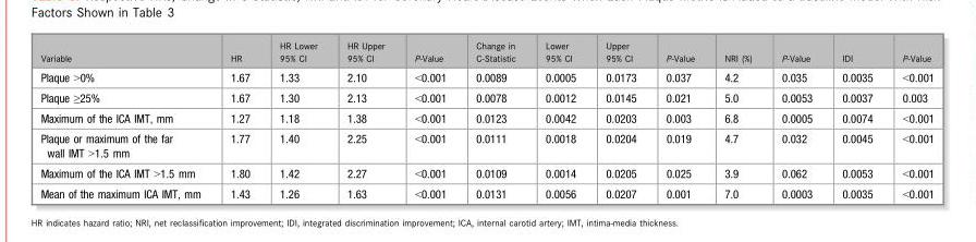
<table><thead><tr><td>Variable</td><td>HR</td><td>HR Lower 95% CI</td><td>HR Upper 95% CI</td><td>P-Value</td><td>Change in C-Statistic</td><td>Lower 95% CI</td><td>Upper 95% CI</td><td>P-Value</td><td>NRI (%)</td><td>P-Value</td><td>IDI</td><td>P-Value</td></tr></thead><tbody><tr><td>Plaque &gt;0%</td><td>1.67</td><td>1.33</td><td>2.10</td><td>&lt;0.001</td><td>0.0089</td><td>0.0005</td><td>0.0173</td><td>0.037</td><td>4.2</td><td>0.035</td><td>0.0035</td><td>&lt;0.001</td></tr><tr><td>Plaque ≥25%</td><td>1.67</td><td>1.30</td><td>2.13</td><td>&lt;0.001</td><td>0.0078</td><td>0.0012</td><td>0.0145</td><td>0.021</td><td>5.0</td><td>0.0053</td><td>0.0037</td><td>0.003</td></tr><tr><td>Maximum of the ICA IMT, mm</td><td>1.27</td><td>1.18</td><td>1.38</td><td>&lt;0.001</td><td>0.0123</td><td>0.0042</td><td>0.0203</td><td>0.003</td><td>6.8</td><td>0.0005</td><td>0.0074</td><td>&lt;0.001</td></tr><tr><td>Plaque or maximum of the far wall IMT &gt;1.5 mm</td><td>1.77</td><td>1.40</td><td>2.25</td><td>&lt;0.001</td><td>0.0111</td><td>0.0018</td><td>0.0204</td><td>0.019</td><td>4.7</td><td>0.032</td><td>0.0045</td><td>&lt;0.001</td></tr><tr><td>Maximum of the ICA IMT &gt;1.5 mm</td><td>1.80</td><td>1.42</td><td>2.27</td><td>&lt;0.001</td><td>0.0109</td><td>0.0014</td><td>0.0205</td><td>0.025</td><td>3.9</td><td>0.062</td><td>0.0053</td><td>&lt;0.001</td></tr><tr><td>Mean of the maximum ICA IMT, mm</td><td>1.43</td><td>1.26</td><td>1.63</td><td>&lt;0.001</td><td>0.0131</td><td>0.0056</td><td>0.0207</td><td>0.001</td><td>7.0</td><td>0.0003</td><td>0.0035</td><td>&lt;0.001</td></tr></tbody></table>